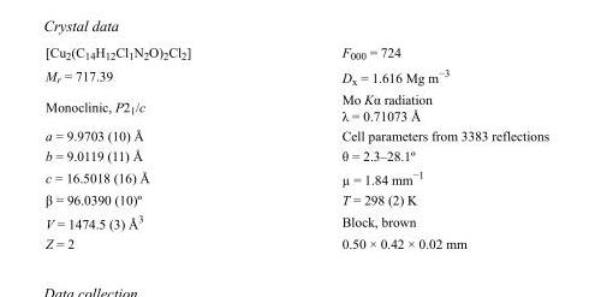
<table><tbody><tr><td>[Cu<sub>2</sub>(C<sub>14</sub>H<sub>12</sub>Cl<sub>1</sub>N<sub>2</sub>O)<sub>2</sub>Cl<sub>2</sub>]</td><td>F<sub>000</sub> = 724</td></tr><tr><td>M<sub>r</sub> = 717.39</td><td>D<sub>x</sub> = 1.616 Mg m<sup>−3</sup></td></tr><tr><td>Monoclinic, P2<sub>1</sub>/c</td><td>Mo Kα radiation λ = 0.71073 Å</td></tr><tr><td>a = 9.9703 (10) Å</td><td>Cell parameters from 3383 reflections</td></tr><tr><td>b = 9.0119 (11) Å</td><td>θ = 2.3–28.1º</td></tr><tr><td>c = 16.5018 (16) Å</td><td>µ = 1.84 mm<sup>−1</sup></td></tr><tr><td>β = 96.0390 (10)º</td><td>T = 298 (2) K</td></tr><tr><td>V = 1474.5 (3) Å<sup>3</sup></td><td>Block, brown</td></tr><tr><td>Z = 2</td><td>0.50 × 0.42 × 0.02 mm</td></tr></tbody></table>